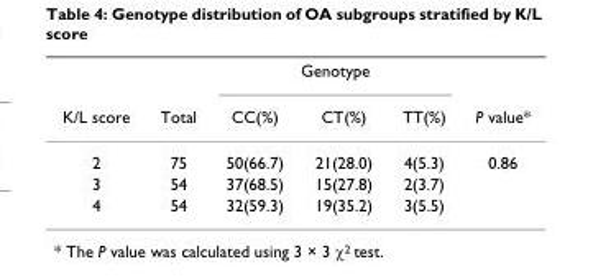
<table><thead><tr><td rowspan="2">K/L score</td><td rowspan="2">Total</td><td colspan="3">Genotype</td><td rowspan="2">P value*</td></tr><tr><td>CC(%)</td><td>CT(%)</td><td>TT(%)</td></tr></thead><tbody><tr><td>2</td><td>75</td><td>50(66.7)</td><td>21(28.0)</td><td>4(5.3)</td><td>0.86</td></tr><tr><td>3</td><td>54</td><td>37(68.5)</td><td>15(27.8)</td><td>2(3.7)</td><td></td></tr><tr><td>4</td><td>54</td><td>32(59.3)</td><td>19(35.2)</td><td>3(5.5)</td><td></td></tr></tbody></table>